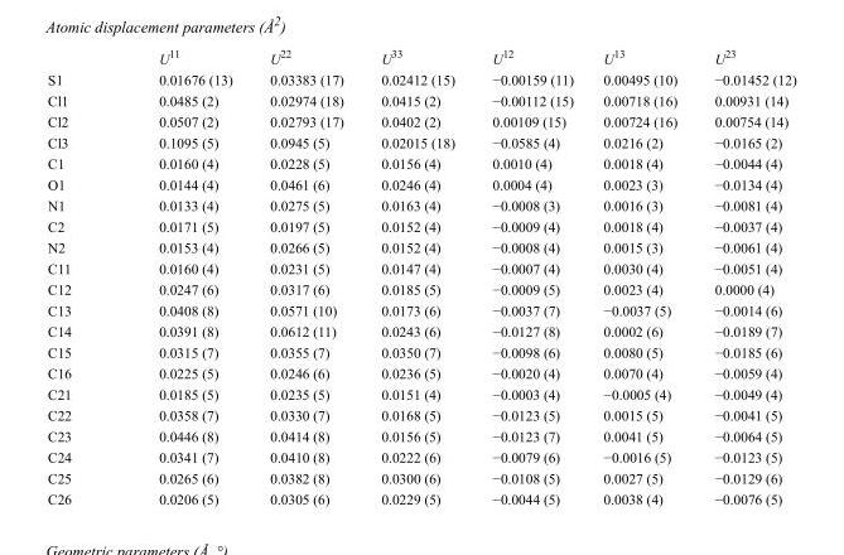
<table><thead><tr><td></td><td>U<sup>11</sup></td><td>U<sup>22</sup></td><td>U<sup>33</sup></td><td>U<sup>12</sup></td><td>U<sup>13</sup></td><td>U<sup>23</sup></td></tr></thead><tbody><tr><td>S1</td><td>0.01676 (13)</td><td>0.03383 (17)</td><td>0.02412 (15)</td><td>−0.00159 (11)</td><td>0.00495 (10)</td><td>−0.01452 (12)</td></tr><tr><td>Cl1</td><td>0.0485 (2)</td><td>0.02974 (18)</td><td>0.0415 (2)</td><td>−0.00112 (15)</td><td>0.00718 (16)</td><td>0.00931 (14)</td></tr><tr><td>Cl2</td><td>0.0507 (2)</td><td>0.02793 (17)</td><td>0.0402 (2)</td><td>0.00109 (15)</td><td>0.00724 (16)</td><td>0.00754 (14)</td></tr><tr><td>Cl3</td><td>0.1095 (5)</td><td>0.0945 (5)</td><td>0.02015 (18)</td><td>−0.0585 (4)</td><td>0.0216 (2)</td><td>−0.0165 (2)</td></tr><tr><td>C1</td><td>0.0160 (4)</td><td>0.0228 (5)</td><td>0.0156 (4)</td><td>0.0010 (4)</td><td>0.0018 (4)</td><td>−0.0044 (4)</td></tr><tr><td>O1</td><td>0.0144 (4)</td><td>0.0461 (6)</td><td>0.0246 (4)</td><td>0.0004 (4)</td><td>0.0023 (3)</td><td>−0.0134 (4)</td></tr><tr><td>N1</td><td>0.0133 (4)</td><td>0.0275 (5)</td><td>0.0163 (4)</td><td>−0.0008 (3)</td><td>0.0016 (3)</td><td>−0.0081 (4)</td></tr><tr><td>C2</td><td>0.0171 (5)</td><td>0.0197 (5)</td><td>0.0152 (4)</td><td>−0.0009 (4)</td><td>0.0018 (4)</td><td>−0.0037 (4)</td></tr><tr><td>N2</td><td>0.0153 (4)</td><td>0.0266 (5)</td><td>0.0152 (4)</td><td>−0.0008 (4)</td><td>0.0015 (3)</td><td>−0.0061 (4)</td></tr><tr><td>C11</td><td>0.0160 (4)</td><td>0.0231 (5)</td><td>0.0147 (4)</td><td>−0.0007 (4)</td><td>0.0030 (4)</td><td>−0.0051 (4)</td></tr><tr><td>C12</td><td>0.0247 (6)</td><td>0.0317 (6)</td><td>0.0185 (5)</td><td>−0.0009 (5)</td><td>0.0023 (4)</td><td>0.0000 (4)</td></tr><tr><td>C13</td><td>0.0408 (8)</td><td>0.0571 (10)</td><td>0.0173 (6)</td><td>−0.0037 (7)</td><td>−0.0037 (5)</td><td>−0.0014 (6)</td></tr><tr><td>C14</td><td>0.0391 (8)</td><td>0.0612 (11)</td><td>0.0243 (6)</td><td>−0.0127 (8)</td><td>0.0002 (6)</td><td>−0.0189 (7)</td></tr><tr><td>C15</td><td>0.0315 (7)</td><td>0.0355 (7)</td><td>0.0350 (7)</td><td>−0.0098 (6)</td><td>0.0080 (5)</td><td>−0.0185 (6)</td></tr><tr><td>C16</td><td>0.0225 (5)</td><td>0.0246 (6)</td><td>0.0236 (5)</td><td>−0.0020 (4)</td><td>0.0070 (4)</td><td>−0.0059 (4)</td></tr><tr><td>C21</td><td>0.0185 (5)</td><td>0.0235 (5)</td><td>0.0151 (4)</td><td>−0.0003 (4)</td><td>−0.0005 (4)</td><td>−0.0049 (4)</td></tr><tr><td>C22</td><td>0.0358 (7)</td><td>0.0330 (7)</td><td>0.0168 (5)</td><td>−0.0123 (5)</td><td>0.0015 (5)</td><td>−0.0041 (5)</td></tr><tr><td>C23</td><td>0.0446 (8)</td><td>0.0414 (8)</td><td>0.0156 (5)</td><td>−0.0123 (7)</td><td>0.0041 (5)</td><td>−0.0064 (5)</td></tr><tr><td>C24</td><td>0.0341 (7)</td><td>0.0410 (8)</td><td>0.0222 (6)</td><td>−0.0079 (6)</td><td>−0.0016 (5)</td><td>−0.0123 (5)</td></tr><tr><td>C25</td><td>0.0265 (6)</td><td>0.0382 (8)</td><td>0.0300 (6)</td><td>−0.0108 (5)</td><td>0.0027 (5)</td><td>−0.0129 (6)</td></tr><tr><td>C26</td><td>0.0206 (5)</td><td>0.0305 (6)</td><td>0.0229 (5)</td><td>−0.0044 (5)</td><td>0.0038 (4)</td><td>−0.0076 (5)</td></tr></tbody></table>